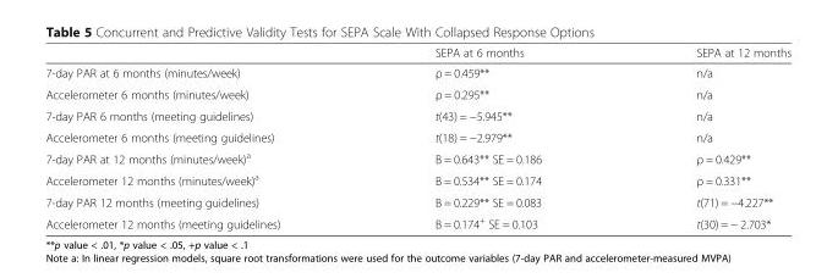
<table><thead><tr><td></td><td>SEPA at 6 months</td><td>SEPA at 12 months</td></tr></thead><tbody><tr><td>7-day PAR at 6 months (minutes/week)</td><td>ρ = 0.459**</td><td>n/a</td></tr><tr><td>Accelerometer 6 months (minutes/week)</td><td>ρ = 0.295**</td><td>n/a</td></tr><tr><td>7-day PAR 6 months (meeting guidelines)</td><td>t(43) = −5.945**</td><td>n/a</td></tr><tr><td>Accelerometer 6 months (meeting guidelines)</td><td>t(18) = −2.979**</td><td>n/a</td></tr><tr><td>7-day PAR at 12 months (minutes/week)<sup>a</sup></td><td>B = 0.643** SE = 0.186</td><td>ρ = 0.429**</td></tr><tr><td>Accelerometer 12 months (minutes/week)<sup>a</sup></td><td>B = 0.534** SE = 0.174</td><td>ρ = 0.331**</td></tr><tr><td>7-day PAR 12 months (meeting guidelines)</td><td>B = 0.229** SE = 0.083</td><td>t(71) = −4.227**</td></tr><tr><td>Accelerometer 12 months (meeting guidelines)</td><td>B = 0.174<sup>+</sup> SE = 0.103</td><td>t(30) = − 2.703*</td></tr></tbody></table>